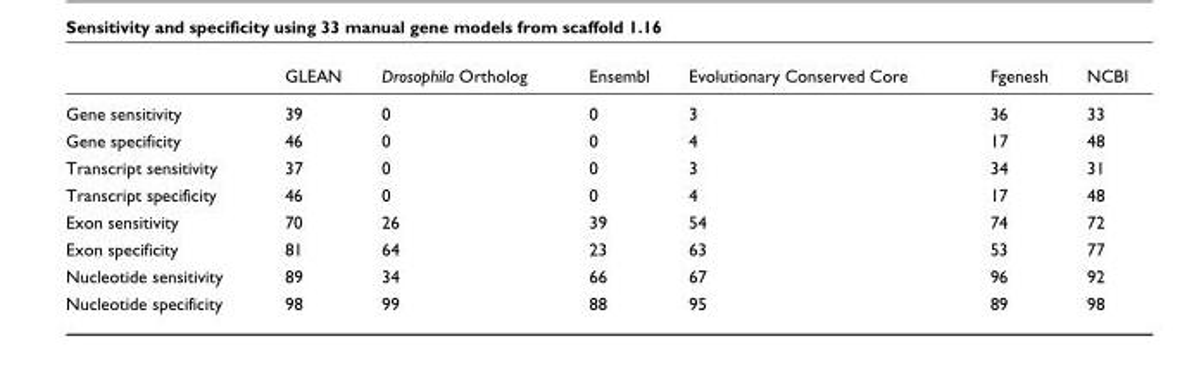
<table><thead><tr><td></td><td>GLEAN</td><td>Drosophila Ortholog</td><td>Ensembl</td><td>Evolutionary Conserved Core</td><td>Fgenesh</td><td>NCBI</td></tr></thead><tbody><tr><td>Gene sensitivity</td><td>39</td><td>0</td><td>0</td><td>3</td><td>36</td><td>33</td></tr><tr><td>Gene specificity</td><td>46</td><td>0</td><td>0</td><td>4</td><td>17</td><td>48</td></tr><tr><td>Transcript sensitivity</td><td>37</td><td>0</td><td>0</td><td>3</td><td>34</td><td>31</td></tr><tr><td>Transcript specificity</td><td>46</td><td>0</td><td>0</td><td>4</td><td>17</td><td>48</td></tr><tr><td>Exon sensitivity</td><td>70</td><td>26</td><td>39</td><td>54</td><td>74</td><td>72</td></tr><tr><td>Exon specificity</td><td>81</td><td>64</td><td>23</td><td>63</td><td>53</td><td>77</td></tr><tr><td>Nucleotide sensitivity</td><td>89</td><td>34</td><td>66</td><td>67</td><td>96</td><td>92</td></tr><tr><td>Nucleotide specificity</td><td>98</td><td>99</td><td>88</td><td>95</td><td>89</td><td>98</td></tr></tbody></table>